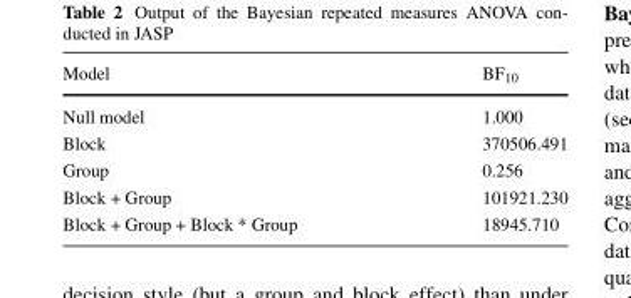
<table><thead><tr><td>Model</td><td>BF<sub>10</sub></td></tr></thead><tbody><tr><td>Null model</td><td>1.000</td></tr><tr><td>Block</td><td>370506.491</td></tr><tr><td>Group</td><td>0.256</td></tr><tr><td>Block + Group</td><td>101921.230</td></tr><tr><td>Block + Group + Block * Group</td><td>18945.710</td></tr></tbody></table>